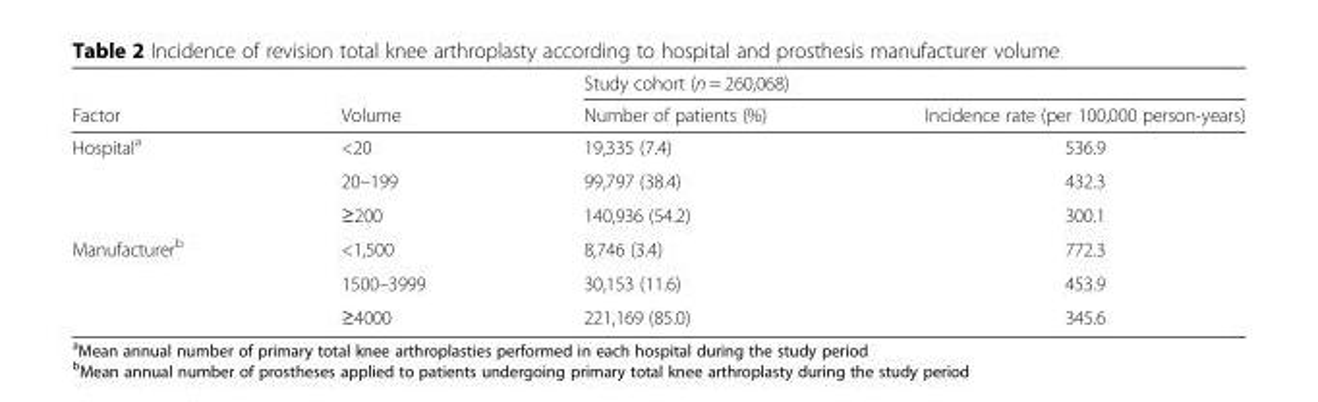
<table><thead><tr><td rowspan="2">Factor</td><td rowspan="2">Volume</td><td colspan="2">Study cohort (n = 260,068)</td></tr><tr><td>Number of patients (%)</td><td>Incidence rate (per 100,000 person-years)</td></tr></thead><tbody><tr><td rowspan="3">Hospital<sup>a</sup></td><td>&lt;20</td><td>19,335 (7.4)</td><td>536.9</td></tr><tr><td>20–199</td><td>99,797 (38.4)</td><td>432.3</td></tr><tr><td>≥200</td><td>140,936 (54.2)</td><td>300.1</td></tr><tr><td rowspan="3">Manufacturer<sup>b</sup></td><td>&lt;1,500</td><td>8,746 (3.4)</td><td>772.3</td></tr><tr><td>1500–3999</td><td>30,153 (11.6)</td><td>453.9</td></tr><tr><td>≥4000</td><td>221,169 (85.0)</td><td>345.6</td></tr></tbody></table>